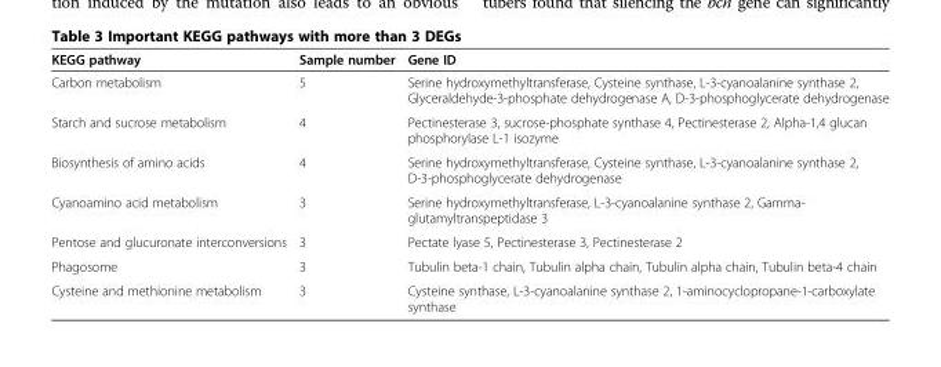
<table><thead><tr><td>KEGG pathway</td><td>Sample number</td><td>Gene ID</td></tr></thead><tbody><tr><td>Carbon metabolism</td><td>5</td><td>Serine hydroxymethyltransferase, Cysteine synthase, L-3-cyanoalanine synthase 2, Glyceraldehyde-3-phosphate dehydrogenase A, D-3-phosphoglycerate dehydrogenase</td></tr><tr><td>Starch and sucrose metabolism</td><td>4</td><td>Pectinesterase 3, sucrose-phosphate synthase 4, Pectinesterase 2, Alpha-1,4 glucan phosphorylase L-1 isozyme</td></tr><tr><td>Biosynthesis of amino acids</td><td>4</td><td>Serine hydroxymethyltransferase, Cysteine synthase, L-3-cyanoalanine synthase 2, D-3-phosphoglycerate dehydrogenase</td></tr><tr><td>Cyanoamino acid metabolism</td><td>3</td><td>Serine hydroxymethyltransferase, L-3-cyanoalanine synthase 2, Gamma- glutamyltranspeptidase 3</td></tr><tr><td>Pentose and glucuronate interconversions</td><td>3</td><td>Pectate lyase 5, Pectinesterase 3, Pectinesterase 2</td></tr><tr><td>Phagosome</td><td>3</td><td>Tubulin beta-1 chain, Tubulin alpha chain, Tubulin alpha chain, Tubulin beta-4 chain</td></tr><tr><td>Cysteine and methionine metabolism</td><td>3</td><td>Cysteine synthase, L-3-cyanoalanine synthase 2, 1-aminocyclopropane-1-carboxylate synthase</td></tr></tbody></table>